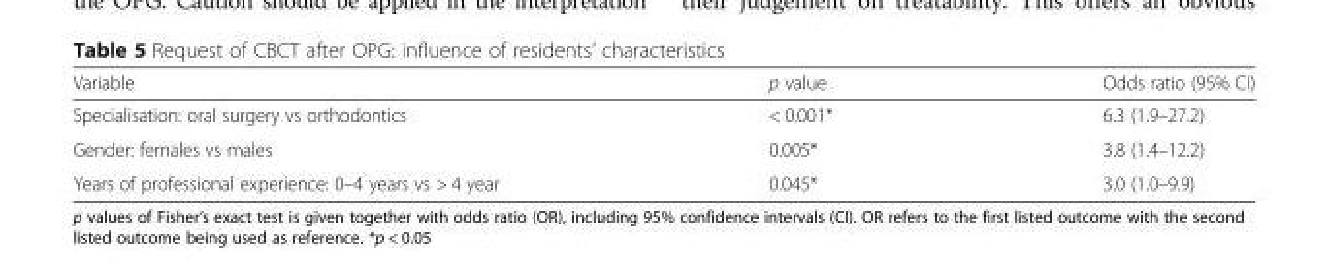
<table><thead><tr><td>Variable</td><td>p value</td><td>Odds ratio (95% CI)</td></tr></thead><tbody><tr><td>Specialisation: oral surgery vs orthodontics</td><td>&lt; 0.001*</td><td>6.3 (1.9–27.2)</td></tr><tr><td>Gender: females vs males</td><td>0.005*</td><td>3.8 (1.4–12.2)</td></tr><tr><td>Years of professional experience: 0–4 years vs &gt; 4 year</td><td>0.045*</td><td>3.0 (1.0–9.9)</td></tr></tbody></table>